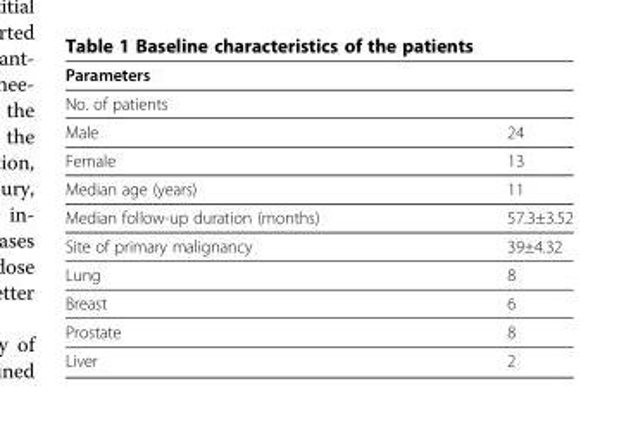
<table><thead><tr><td>Parameters</td><td></td></tr></thead><tbody><tr><td colspan="2">No. of patients</td></tr><tr><td>Male</td><td>24</td></tr><tr><td>Female</td><td>13</td></tr><tr><td>Median age (years)</td><td>11</td></tr><tr><td>Median follow-up duration (months)</td><td>57.3±3.52</td></tr><tr><td>Site of primary malignancy</td><td>39±4.32</td></tr><tr><td>Lung</td><td>8</td></tr><tr><td>Breast</td><td>6</td></tr><tr><td>Prostate</td><td>8</td></tr><tr><td>Liver</td><td>2</td></tr></tbody></table>